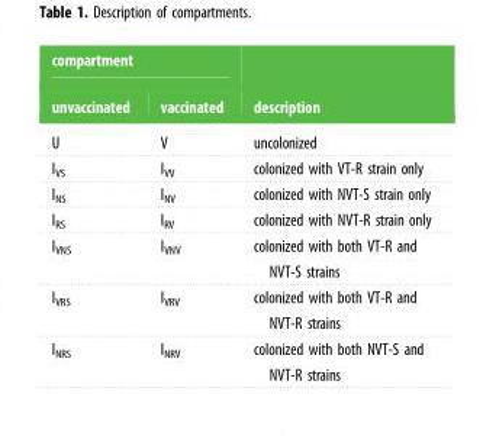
<table><thead><tr><td colspan="2">compartment</td><td rowspan="2">description</td></tr><tr><td>unvaccinated</td><td>vaccinated</td></tr></thead><tbody><tr><td>U</td><td>V</td><td>uncolonized</td></tr><tr><td>I<sub>VS</sub></td><td>I<sub>VV</sub></td><td>colonized with VT-R strain only</td></tr><tr><td>I<sub>NS</sub></td><td>I<sub>NV</sub></td><td>colonized with NVT-S strain only</td></tr><tr><td>I<sub>RS</sub></td><td>I<sub>RV</sub></td><td>colonized with NVT-R strain only</td></tr><tr><td>I<sub>VNS</sub></td><td>I<sub>VNV</sub></td><td>colonized with both VT-R and NVT-S strains</td></tr><tr><td>I<sub>VRS</sub></td><td>I<sub>VRV</sub></td><td>colonized with both VT-R and NVT-R strains</td></tr><tr><td>I<sub>NRS</sub></td><td>I<sub>NRV</sub></td><td>colonized with both NVT-S and NVT-R strains</td></tr></tbody></table>